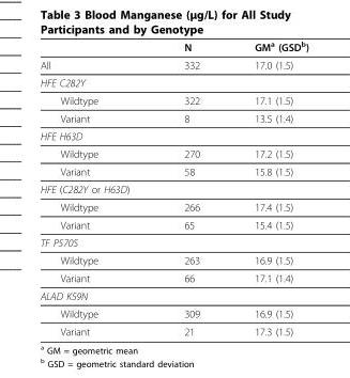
<table><thead><tr><td></td><td>N</td><td>GM<sup>a</sup> (GSD<sup>b</sup>)</td></tr></thead><tbody><tr><td>All</td><td>332</td><td>17.0 (1.5)</td></tr><tr><td colspan="3">HFE C282Y</td></tr><tr><td>Wildtype</td><td>322</td><td>17.1 (1.5)</td></tr><tr><td>Variant</td><td>8</td><td>13.5 (1.4)</td></tr><tr><td colspan="3">HFE H63D</td></tr><tr><td>Wildtype</td><td>270</td><td>17.2 (1.5)</td></tr><tr><td>Variant</td><td>58</td><td>15.8 (1.5)</td></tr><tr><td colspan="3">HFE (C282Y or H63D)</td></tr><tr><td>Wildtype</td><td>266</td><td>17.4 (1.5)</td></tr><tr><td>Variant</td><td>65</td><td>15.4 (1.5)</td></tr><tr><td colspan="3">TF P570S</td></tr><tr><td>Wildtype</td><td>263</td><td>16.9 (1.5)</td></tr><tr><td>Variant</td><td>66</td><td>17.1 (1.4)</td></tr><tr><td colspan="3">ALAD K59N</td></tr><tr><td>Wildtype</td><td>309</td><td>16.9 (1.5)</td></tr><tr><td>Variant</td><td>21</td><td>17.3 (1.5)</td></tr></tbody></table>